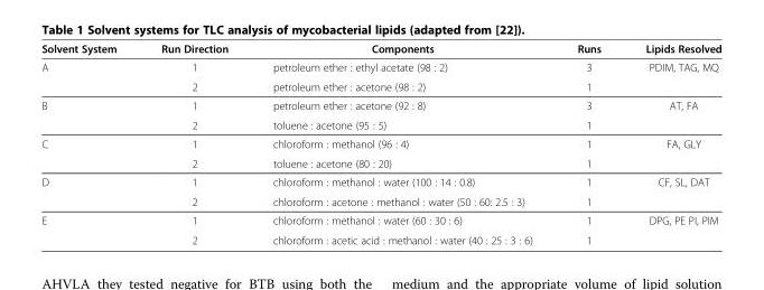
<table><thead><tr><td>Solvent System</td><td>Run Direction</td><td>Components</td><td>Runs</td><td>Lipids Resolved</td></tr></thead><tbody><tr><td rowspan="2">A</td><td>1</td><td>petroleum ether : ethyl acetate (98 : 2)</td><td>3</td><td rowspan="2">PDIM, TAG, MQ</td></tr><tr><td>2</td><td>petroleum ether : acetone (98 : 2)</td><td>1</td></tr><tr><td rowspan="2">B</td><td>1</td><td>petroleum ether : acetone (92 : 8)</td><td>3</td><td rowspan="2">AT, FA</td></tr><tr><td>2</td><td>toluene : acetone (95 : 5)</td><td>1</td></tr><tr><td rowspan="2">C</td><td>1</td><td>chloroform : methanol (96 : 4)</td><td>1</td><td rowspan="2">FA, GLY</td></tr><tr><td>2</td><td>toluene : acetone (80 : 20)</td><td>1</td></tr><tr><td rowspan="2">D</td><td>1</td><td>chloroform : methanol : water (100 : 14 : 0.8)</td><td>1</td><td rowspan="2">CF, SL, DAT</td></tr><tr><td>2</td><td>chloroform : acetone : methanol : water (50 : 60: 2.5 : 3)</td><td>1</td></tr><tr><td rowspan="2">E</td><td>1</td><td>chloroform : methanol : water (60 : 30 : 6)</td><td>1</td><td rowspan="2">DPG, PE PI, PIM</td></tr><tr><td>2</td><td>chloroform : acetic acid : methanol : water (40 : 25 : 3 : 6)</td><td>1</td></tr></tbody></table>